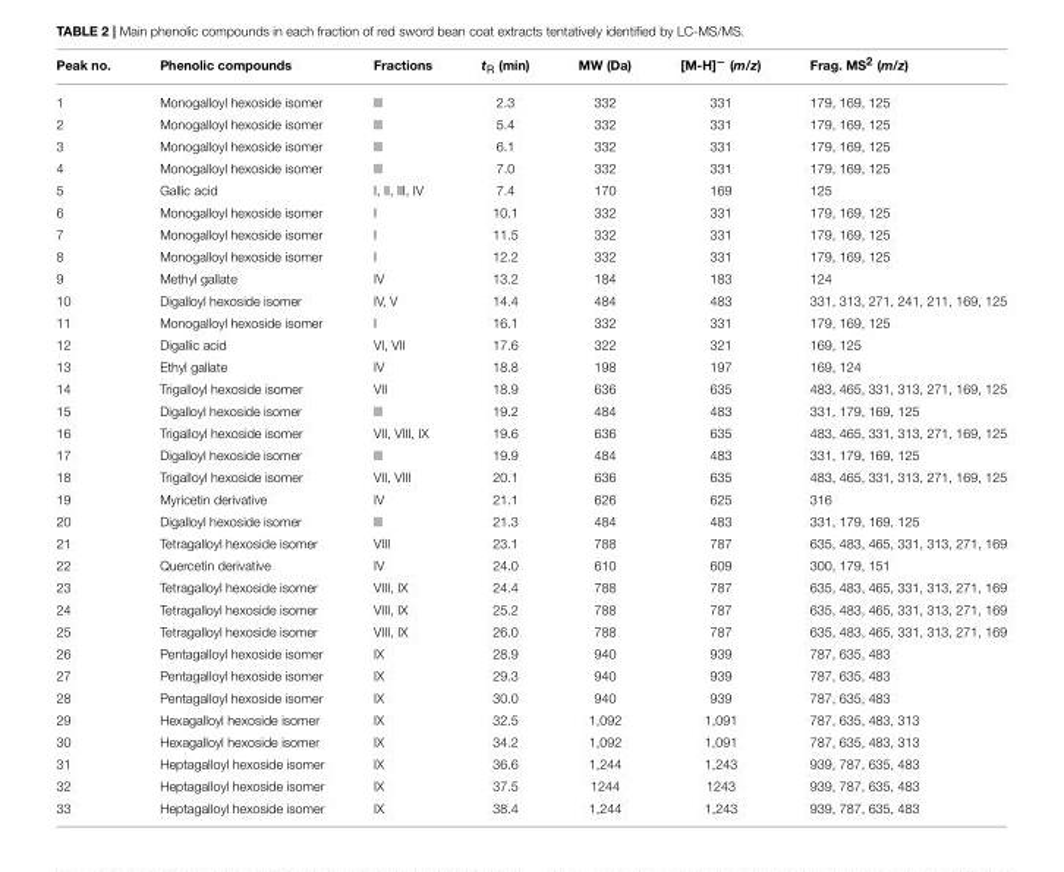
<table><thead><tr><td>Peak no.</td><td>Phenolic compounds</td><td>Fractions</td><td>t<sub>R</sub> (min)</td><td>MW (Da)</td><td>[M-H]<sup>−</sup> (m/z)</td><td>Frag. MS<sup>2</sup> (m/z)</td></tr></thead><tbody><tr><td>1</td><td>Monogalloyl hexoside isomer</td><td>III</td><td>2.3</td><td>332</td><td>331</td><td>179, 169, 125</td></tr><tr><td>2</td><td>Monogalloyl hexoside isomer</td><td>III</td><td>5.4</td><td>332</td><td>331</td><td>179, 169, 125</td></tr><tr><td>3</td><td>Monogalloyl hexoside isomer</td><td>III</td><td>6.1</td><td>332</td><td>331</td><td>179, 169, 125</td></tr><tr><td>4</td><td>Monogalloyl hexoside isomer</td><td>III</td><td>7.0</td><td>332</td><td>331</td><td>179, 169, 125</td></tr><tr><td>5</td><td>Gallic acid</td><td>I, II, III, IV</td><td>7.4</td><td>170</td><td>169</td><td>125</td></tr><tr><td>6</td><td>Monogalloyl hexoside isomer</td><td>I</td><td>10.1</td><td>332</td><td>331</td><td>179, 169, 125</td></tr><tr><td>7</td><td>Monogalloyl hexoside isomer</td><td>I</td><td>11.5</td><td>332</td><td>331</td><td>179, 169, 125</td></tr><tr><td>8</td><td>Monogalloyl hexoside isomer</td><td>I</td><td>12.2</td><td>332</td><td>331</td><td>179, 169, 125</td></tr><tr><td>9</td><td>Methyl gallate</td><td>IV</td><td>13.2</td><td>184</td><td>183</td><td>124</td></tr><tr><td>10</td><td>Digalloyl hexoside isomer</td><td>IV, V</td><td>14.4</td><td>484</td><td>483</td><td>331, 313, 271, 241, 211, 169, 125</td></tr><tr><td>11</td><td>Monogalloyl hexoside isomer</td><td>I</td><td>16.1</td><td>332</td><td>331</td><td>179, 169, 125</td></tr><tr><td>12</td><td>Digallic acid</td><td>VI, VII</td><td>17.6</td><td>322</td><td>321</td><td>169, 125</td></tr><tr><td>13</td><td>Ethyl gallate</td><td>IV</td><td>18.8</td><td>198</td><td>197</td><td>169, 124</td></tr><tr><td>14</td><td>Trigalloyl hexoside isomer</td><td>VII</td><td>18.9</td><td>636</td><td>635</td><td>483, 465, 331, 313, 271, 169, 125</td></tr><tr><td>15</td><td>Digalloyl hexoside isomer</td><td>III</td><td>19.2</td><td>484</td><td>483</td><td>331, 179, 169, 125</td></tr><tr><td>16</td><td>Trigalloyl hexoside isomer</td><td>VII, VIII, IX</td><td>19.6</td><td>636</td><td>635</td><td>483, 465, 331, 313, 271, 169, 125</td></tr><tr><td>17</td><td>Digalloyl hexoside isomer</td><td>III</td><td>19.9</td><td>484</td><td>483</td><td>331, 179, 169, 125</td></tr><tr><td>18</td><td>Trigalloyl hexoside isomer</td><td>VII, VIII</td><td>20.1</td><td>636</td><td>635</td><td>483, 465, 331, 313, 271, 169, 125</td></tr><tr><td>19</td><td>Myricetin derivative</td><td>IV</td><td>21.1</td><td>626</td><td>625</td><td>316</td></tr><tr><td>20</td><td>Digalloyl hexoside isomer</td><td>III</td><td>21.3</td><td>484</td><td>483</td><td>331, 179, 169, 125</td></tr><tr><td>21</td><td>Tetragalloyl hexoside isomer</td><td>VIII</td><td>23.1</td><td>788</td><td>787</td><td>635, 483, 465, 331, 313, 271, 169</td></tr><tr><td>22</td><td>Quercetin derivative</td><td>IV</td><td>24.0</td><td>610</td><td>609</td><td>300, 179, 151</td></tr><tr><td>23</td><td>Tetragalloyl hexoside isomer</td><td>VIII, IX</td><td>24.4</td><td>788</td><td>787</td><td>635, 483, 465, 331, 313, 271, 169</td></tr><tr><td>24</td><td>Tetragalloyl hexoside isomer</td><td>VIII, IX</td><td>25.2</td><td>788</td><td>787</td><td>635, 483, 465, 331, 313, 271, 169</td></tr><tr><td>25</td><td>Tetragalloyl hexoside isomer</td><td>VIII, IX</td><td>26.0</td><td>788</td><td>787</td><td>635, 483, 465, 331, 313, 271, 169</td></tr><tr><td>26</td><td>Pentagalloyl hexoside isomer</td><td>IX</td><td>28.9</td><td>940</td><td>939</td><td>787, 635, 483</td></tr><tr><td>27</td><td>Pentagalloyl hexoside isomer</td><td>IX</td><td>29.3</td><td>940</td><td>939</td><td>787, 635, 483</td></tr><tr><td>28</td><td>Pentagalloyl hexoside isomer</td><td>IX</td><td>30.0</td><td>940</td><td>939</td><td>787, 635, 483</td></tr><tr><td>29</td><td>Hexagalloyl hexoside isomer</td><td>IX</td><td>32.5</td><td>1,092</td><td>1,091</td><td>787, 635, 483, 313</td></tr><tr><td>30</td><td>Hexagalloyl hexoside isomer</td><td>IX</td><td>34.2</td><td>1,092</td><td>1,091</td><td>787, 635, 483, 313</td></tr><tr><td>31</td><td>Heptagalloyl hexoside isomer</td><td>IX</td><td>36.6</td><td>1,244</td><td>1,243</td><td>939, 787, 635, 483</td></tr><tr><td>32</td><td>Heptagalloyl hexoside isomer</td><td>IX</td><td>37.5</td><td>1244</td><td>1243</td><td>939, 787, 635, 483</td></tr><tr><td>33</td><td>Heptagalloyl hexoside isomer</td><td>IX</td><td>38.4</td><td>1,244</td><td>1,243</td><td>939, 787, 635, 483</td></tr></tbody></table>